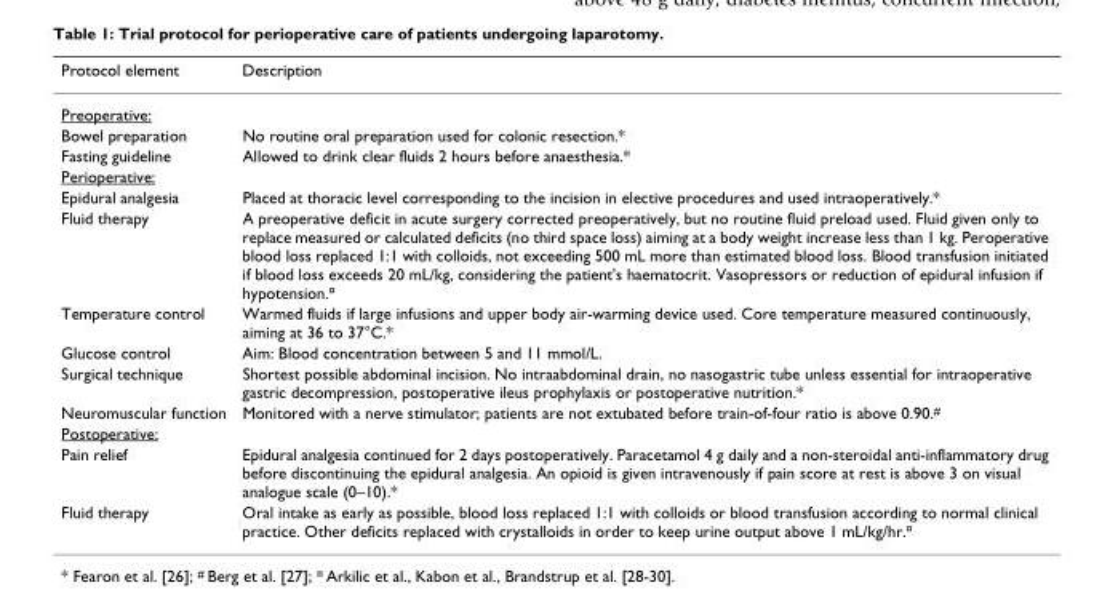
<table><thead><tr><td>Protocol element</td><td>Description</td></tr></thead><tbody><tr><td colspan="2">Preoperative:</td></tr><tr><td>Bowel preparation</td><td>No routine oral preparation used for colonic resection.*</td></tr><tr><td>Fasting guideline</td><td>Allowed to drink clear fluids 2 hours before anaesthesia.*</td></tr><tr><td colspan="2">Perioperative:</td></tr><tr><td>Epidural analgesia</td><td>Placed at thoracic level corresponding to the incision in elective procedures and used intraoperatively.*</td></tr><tr><td>Fluid therapy</td><td>A preoperative deficit in acute surgery corrected preoperatively, but no routine fluid preload used. Fluid given only to replace measured or calculated deficits (no third space loss) aiming at a body weight increase less than 1 kg. Peroperative blood loss replaced 1:1 with colloids, not exceeding 500 mL more than estimated blood loss. Blood transfusion initiated if blood loss exceeds 20 mL/kg, considering the patient&#x27;s haematocrit. Vasopressors or reduction of epidural infusion if hypotension.<sup>¤</sup></td></tr><tr><td>Temperature control</td><td>Warmed fluids if large infusions and upper body air-warming device used. Core temperature measured continuously, aiming at 36 to 37°C.*</td></tr><tr><td>Glucose control</td><td>Aim: Blood concentration between 5 and 11 mmol/L.</td></tr><tr><td>Surgical technique</td><td>Shortest possible abdominal incision. No intraabdominal drain, no nasogastric tube unless essential for intraoperative gastric decompression, postoperative ileus prophylaxis or postoperative nutrition.*</td></tr><tr><td>Neuromuscular function</td><td>Monitored with a nerve stimulator; patients are not extubated before train-of-four ratio is above 0.90.<sup>#</sup></td></tr><tr><td colspan="2">Postoperative:</td></tr><tr><td>Pain relief</td><td>Epidural analgesia continued for 2 days postoperatively. Paracetamol 4 g daily and a non-steroidal anti-inflammatory drug before discontinuing the epidural analgesia. An opioid is given intravenously if pain score at rest is above 3 on visual analogue scale (0–10).*</td></tr><tr><td>Fluid therapy</td><td>Oral intake as early as possible, blood loss replaced 1:1 with colloids or blood transfusion according to normal clinical practice. Other deficits replaced with crystalloids in order to keep urine output above 1 mL/kg/hr.<sup>¤</sup></td></tr></tbody></table>